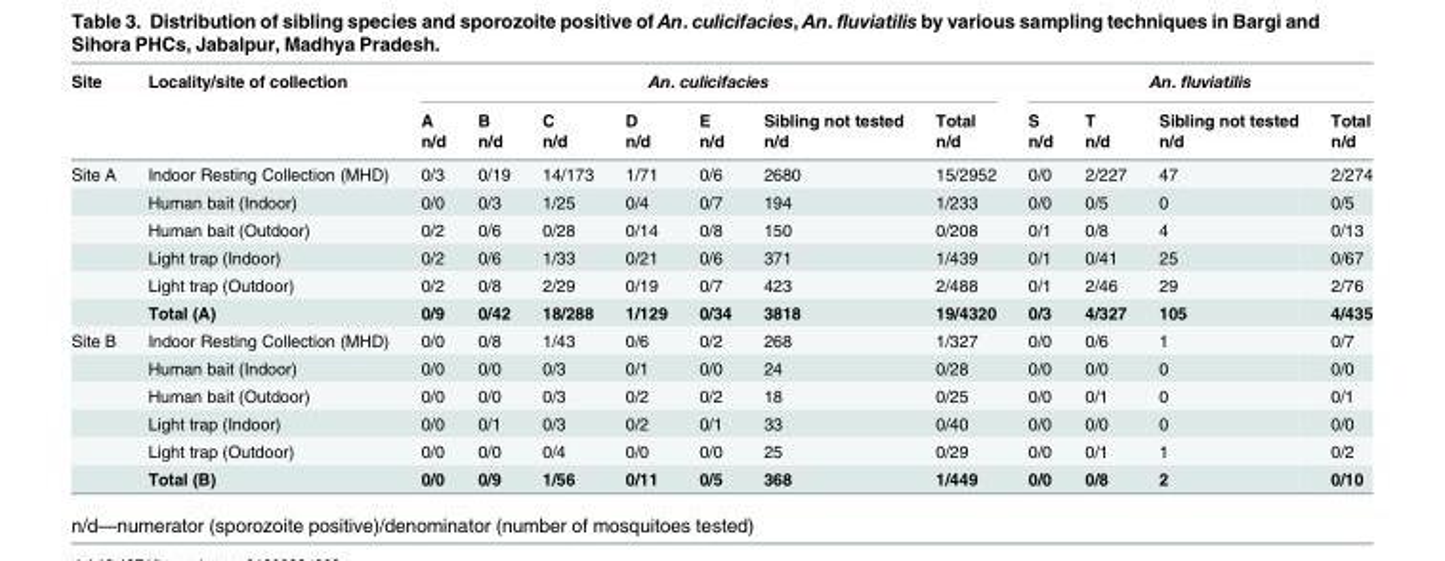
<table><thead><tr><td rowspan="3">Site</td><td rowspan="3">Locality/site of collection</td><td colspan="7">An. culicifacies</td><td colspan="4">An. fluviatilis</td></tr><tr><td rowspan="2">A n/d</td><td rowspan="2">B n/d</td><td rowspan="2">C n/d</td><td rowspan="2">D n/d</td><td rowspan="2">E n/d</td><td rowspan="2">Sibling not tested n/d</td><td rowspan="2">Total n/d</td><td rowspan="2">S n/d</td><td rowspan="2">T n/d</td><td rowspan="2">Sibling not tested n/d</td><td rowspan="2">Total n/d</td></tr><tr></tr></thead><tbody><tr><td rowspan="6">Site A</td><td>Indoor Resting Collection (MHD)</td><td>0/3</td><td>0/19</td><td>14/173</td><td>1/71</td><td>0/6</td><td>2680</td><td>15/2952</td><td>0/0</td><td>2/227</td><td>47</td><td>2/274</td></tr><tr><td>Human bait (Indoor)</td><td>0/0</td><td>0/3</td><td>1/25</td><td>0/4</td><td>0/7</td><td>194</td><td>1/233</td><td>0/0</td><td>0/5</td><td>0</td><td>0/5</td></tr><tr><td>Human bait (Outdoor)</td><td>0/2</td><td>0/6</td><td>0/28</td><td>0/14</td><td>0/8</td><td>150</td><td>0/208</td><td>0/1</td><td>0/8</td><td>4</td><td>0/13</td></tr><tr><td>Light trap (Indoor)</td><td>0/2</td><td>0/6</td><td>1/33</td><td>0/21</td><td>0/6</td><td>371</td><td>1/439</td><td>0/1</td><td>0/41</td><td>25</td><td>0/67</td></tr><tr><td>Light trap (Outdoor)</td><td>0/2</td><td>0/8</td><td>2/29</td><td>0/19</td><td>0/7</td><td>423</td><td>2/488</td><td>0/1</td><td>2/46</td><td>29</td><td>2/76</td></tr><tr><td>Total (A)</td><td>0/9</td><td>0/42</td><td>18/288</td><td>1/129</td><td>0/34</td><td>3818</td><td>19/4320</td><td>0/3</td><td>4/327</td><td>105</td><td>4/435</td></tr><tr><td rowspan="6">Site B</td><td>Indoor Resting Collection (MHD)</td><td>0/0</td><td>0/8</td><td>1/43</td><td>0/6</td><td>0/2</td><td>268</td><td>1/327</td><td>0/0</td><td>0/6</td><td>1</td><td>0/7</td></tr><tr><td>Human bait (Indoor)</td><td>0/0</td><td>0/0</td><td>0/3</td><td>0/1</td><td>0/0</td><td>24</td><td>0/28</td><td>0/0</td><td>0/0</td><td>0</td><td>0/0</td></tr><tr><td>Human bait (Outdoor)</td><td>0/0</td><td>0/0</td><td>0/3</td><td>0/2</td><td>0/2</td><td>18</td><td>0/25</td><td>0/0</td><td>0/1</td><td>0</td><td>0/1</td></tr><tr><td>Light trap (Indoor)</td><td>0/0</td><td>0/1</td><td>0/3</td><td>0/2</td><td>0/1</td><td>33</td><td>0/40</td><td>0/0</td><td>0/0</td><td>0</td><td>0/0</td></tr><tr><td>Light trap (Outdoor)</td><td>0/0</td><td>0/0</td><td>0/4</td><td>0/0</td><td>0/0</td><td>25</td><td>0/29</td><td>0/0</td><td>0/1</td><td>1</td><td>0/2</td></tr><tr><td>Total (B)</td><td>0/0</td><td>0/9</td><td>1/56</td><td>0/11</td><td>0/5</td><td>368</td><td>1/449</td><td>0/0</td><td>0/8</td><td>2</td><td>0/10</td></tr></tbody></table>